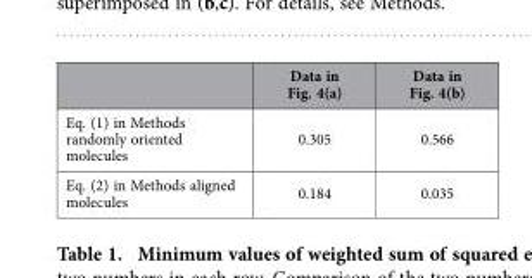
<table><thead><tr><td></td><td>Data in Fig. 4(a)</td><td>Data in Fig. 4(b)</td></tr></thead><tbody><tr><td>Eq. (1) in Methods randomly oriented molecules</td><td>0.305</td><td>0.566</td></tr><tr><td>Eq. (2) in Methods aligned molecules</td><td>0.184</td><td>0.035</td></tr></tbody></table>